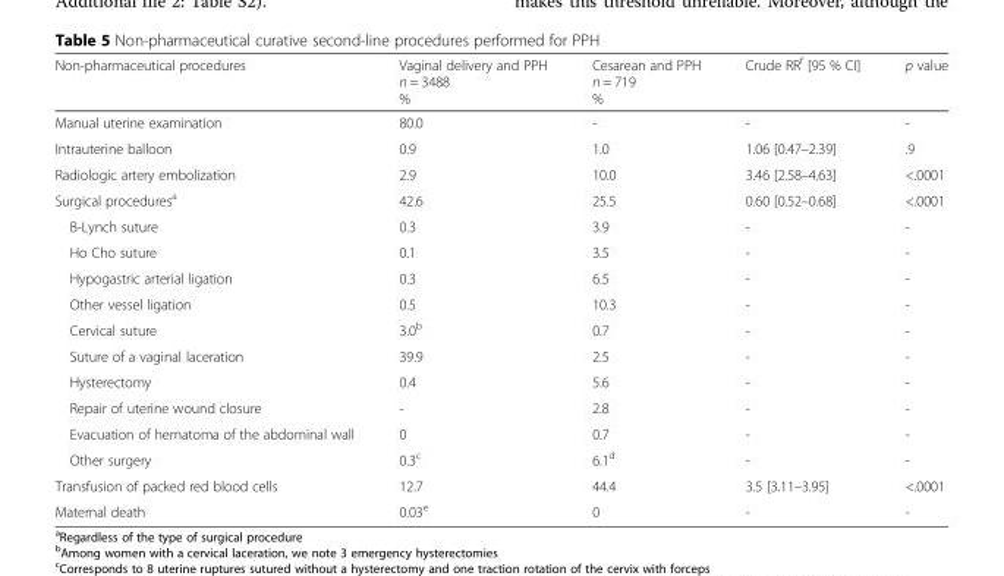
<table><thead><tr><td>Non-pharmaceutical procedures</td><td>Vaginal delivery and PPH n = 3488 %</td><td>Cesarean and PPH n = 719 %</td><td>Crude RR<sup>f</sup> [95 % CI]</td><td>p value</td></tr></thead><tbody><tr><td>Manual uterine examination</td><td>80.0</td><td>-</td><td>-</td><td>-</td></tr><tr><td>Intrauterine balloon</td><td>0.9</td><td>1.0</td><td>1.06 [0.47–2.39]</td><td>.9</td></tr><tr><td>Radiologic artery embolization</td><td>2.9</td><td>10.0</td><td>3.46 [2.58–4.63]</td><td>&lt;.0001</td></tr><tr><td>Surgical procedures<sup>a</sup></td><td>42.6</td><td>25.5</td><td>0.60 [0.52–0.68]</td><td>&lt;.0001</td></tr><tr><td>B-Lynch suture</td><td>0.3</td><td>3.9</td><td>-</td><td>-</td></tr><tr><td>Ho Cho suture</td><td>0.1</td><td>3.5</td><td>-</td><td>-</td></tr><tr><td>Hypogastric arterial ligation</td><td>0.3</td><td>6.5</td><td>-</td><td>-</td></tr><tr><td>Other vessel ligation</td><td>0.5</td><td>10.3</td><td>-</td><td>-</td></tr><tr><td>Cervical suture</td><td>3.0<sup>b</sup></td><td>0.7</td><td>-</td><td>-</td></tr><tr><td>Suture of a vaginal laceration</td><td>39.9</td><td>2.5</td><td>-</td><td>-</td></tr><tr><td>Hysterectomy</td><td>0.4</td><td>5.6</td><td>-</td><td>-</td></tr><tr><td>Repair of uterine wound closure</td><td>-</td><td>2.8</td><td>-</td><td>-</td></tr><tr><td>Evacuation of hematoma of the abdominal wall</td><td>0</td><td>0.7</td><td>-</td><td>-</td></tr><tr><td>Other surgery</td><td>0.3<sup>c</sup></td><td>6.1<sup>d</sup></td><td>-</td><td>-</td></tr><tr><td>Transfusion of packed red blood cells</td><td>12.7</td><td>44.4</td><td>3.5 [3.11–3.95]</td><td>&lt;.0001</td></tr><tr><td>Maternal death</td><td>0.03<sup>e</sup></td><td>0</td><td>-</td><td>-</td></tr></tbody></table>